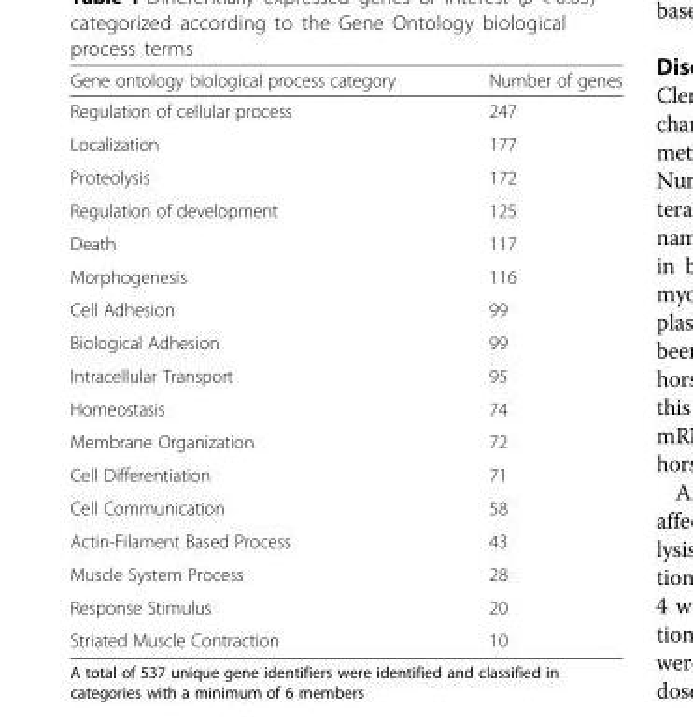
<table><thead><tr><td>Gene ontology biological process category</td><td>Number of genes</td></tr></thead><tbody><tr><td>Regulation of cellular process</td><td>247</td></tr><tr><td>Localization</td><td>177</td></tr><tr><td>Proteolysis</td><td>172</td></tr><tr><td>Regulation of development</td><td>125</td></tr><tr><td>Death</td><td>117</td></tr><tr><td>Morphogenesis</td><td>116</td></tr><tr><td>Cell Adhesion</td><td>99</td></tr><tr><td>Biological Adhesion</td><td>99</td></tr><tr><td>Intracellular Transport</td><td>95</td></tr><tr><td>Homeostasis</td><td>74</td></tr><tr><td>Membrane Organization</td><td>72</td></tr><tr><td>Cell Differentiation</td><td>71</td></tr><tr><td>Cell Communication</td><td>58</td></tr><tr><td>Actin-Filament Based Process</td><td>43</td></tr><tr><td>Muscle System Process</td><td>28</td></tr><tr><td>Response Stimulus</td><td>20</td></tr><tr><td>Striated Muscle Contraction</td><td>10</td></tr></tbody></table>